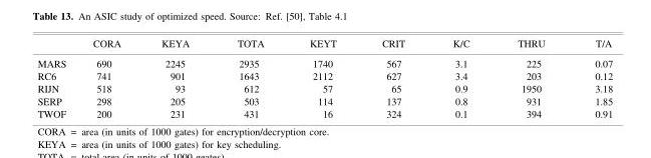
<table><thead><tr><td></td><td>CORA</td><td>KEYA</td><td>TOTA</td><td>KEYT</td><td>CRIT</td><td>K/C</td><td>THRU</td><td>T/A</td></tr></thead><tbody><tr><td>MARS</td><td>690</td><td>2245</td><td>2935</td><td>1740</td><td>567</td><td>3.1</td><td>225</td><td>0.07</td></tr><tr><td>RC6</td><td>741</td><td>901</td><td>1643</td><td>2112</td><td>627</td><td>3.4</td><td>203</td><td>0.12</td></tr><tr><td>RIJN</td><td>518</td><td>93</td><td>612</td><td>57</td><td>65</td><td>0.9</td><td>1950</td><td>3.18</td></tr><tr><td>SERP</td><td>298</td><td>205</td><td>503</td><td>114</td><td>137</td><td>0.8</td><td>931</td><td>1.85</td></tr><tr><td>TWOF</td><td>200</td><td>231</td><td>431</td><td>16</td><td>324</td><td>0.1</td><td>394</td><td>0.91</td></tr></tbody></table>